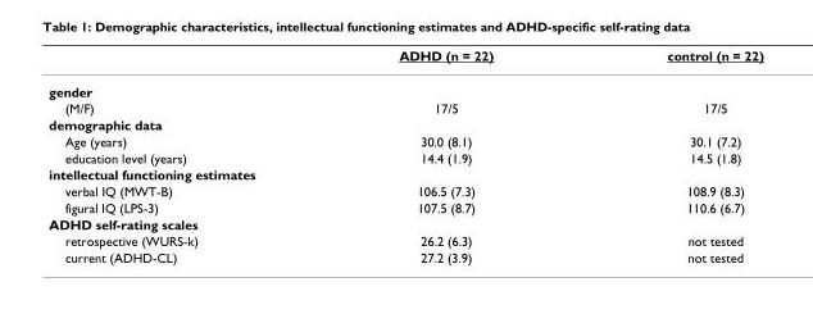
<table><thead><tr><td></td><td>ADHD (n = 22)</td><td>control (n = 22)</td></tr></thead><tbody><tr><td colspan="3">gender</td></tr><tr><td>(M/F)</td><td>17/5</td><td>17/5</td></tr><tr><td colspan="3">demographic data</td></tr><tr><td>Age (years)</td><td>30.0 (8.1)</td><td>30.1 (7.2)</td></tr><tr><td>education level (years)</td><td>14.4 (1.9)</td><td>14.5 (1.8)</td></tr><tr><td colspan="3">intellectual functioning estimates</td></tr><tr><td>verbal IQ (MWT-B)</td><td>106.5 (7.3)</td><td>108.9 (8.3)</td></tr><tr><td>figural IQ (LPS-3)</td><td>107.5 (8.7)</td><td>110.6 (6.7)</td></tr><tr><td colspan="3">ADHD self-rating scales</td></tr><tr><td>retrospective (WURS-k)</td><td>26.2 (6.3)</td><td>not tested</td></tr><tr><td>current (ADHD-CL)</td><td>27.2 (3.9)</td><td>not tested</td></tr></tbody></table>